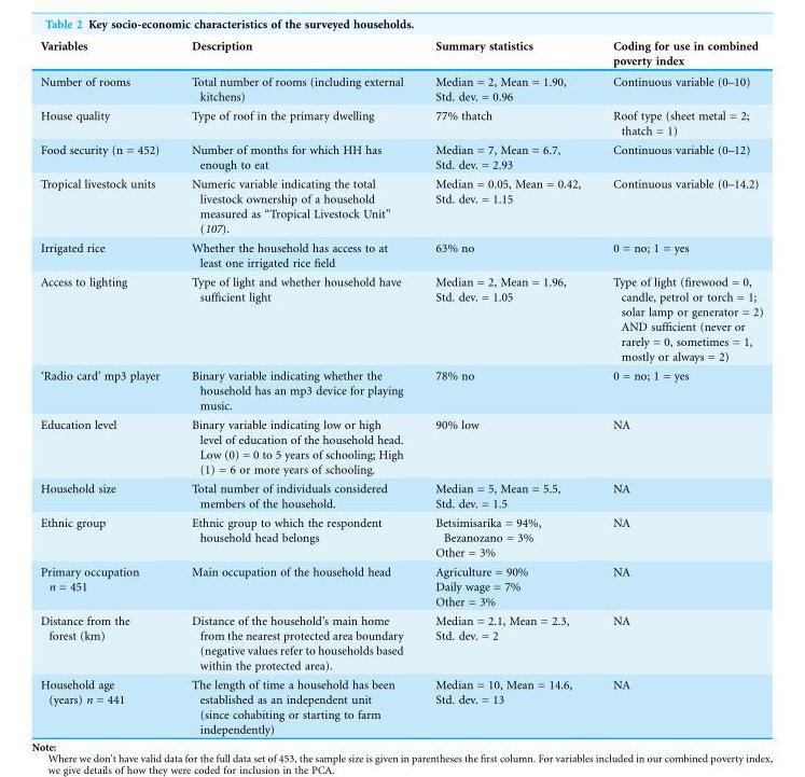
<table><thead><tr><td>Variables</td><td>Description</td><td>Summary statistics</td><td>Coding for use in combined poverty index</td></tr></thead><tbody><tr><td>Number of rooms</td><td>Total number of rooms (including external kitchens)</td><td>Median = 2, Mean = 1.90, Std. dev. = 0.96</td><td>Continuous variable (0–10)</td></tr><tr><td>House quality</td><td>Type of roof in the primary dwelling</td><td>77% thatch</td><td>Roof type (sheet metal = 2; thatch = 1)</td></tr><tr><td>Food security (n = 452)</td><td>Number of months for which HH has enough to eat</td><td>Median = 7, Mean = 6.7, Std. dev. = 2.93</td><td>Continuous variable (0–12)</td></tr><tr><td>Tropical livestock units</td><td>Numeric variable indicating the total livestock ownership of a household measured as “Tropical Livestock Unit” (107).</td><td>Median = 0.05, Mean = 0.42, Std. dev. = 1.15</td><td>Continuous variable (0–14.2)</td></tr><tr><td>Irrigated rice</td><td>Whether the household has access to at least one irrigated rice field</td><td>63% no</td><td>0 = no; 1 = yes</td></tr><tr><td>Access to lighting</td><td>Type of light and whether household have sufficient light</td><td>Median = 2, Mean = 1.96, Std. dev. = 1.05</td><td>Type of light (firewood = 0, candle, petrol or torch = 1; solar lamp or generator = 2) AND sufficient (never or rarely = 0, sometimes = 1, mostly or always = 2)</td></tr><tr><td>‘Radio card’ mp3 player</td><td>Binary variable indicating whether the household has an mp3 device for playing music.</td><td>78% no</td><td>0 = no; 1 = yes</td></tr><tr><td>Education level</td><td>Binary variable indicating low or high level of education of the household head. Low (0) = 0 to 5 years of schooling; High (1) = 6 or more years of schooling.</td><td>90% low</td><td>NA</td></tr><tr><td>Household size</td><td>Total number of individuals considered members of the household.</td><td>Median = 5, Mean = 5.5, Std. dev. = 1.5</td><td>NA</td></tr><tr><td>Ethnic group</td><td>Ethnic group to which the respondent household head belongs</td><td>Betsimisarika = 94%, Bezanozano = 3% Other = 3%</td><td>NA</td></tr><tr><td>Primary occupation n = 451</td><td>Main occupation of the household head</td><td>Agriculture = 90% Daily wage = 7% Other = 3%</td><td>NA</td></tr><tr><td>Distance from the forest (km)</td><td>Distance of the household’s main home from the nearest protected area boundary (negative values refer to households based within the protected area).</td><td>Median = 2.1, Mean = 2.3, Std. dev. = 2</td><td>NA</td></tr><tr><td>Household age (years) n = 441</td><td>The length of time a household has been established as an independent unit (since cohabiting or starting to farm independently)</td><td>Median = 10, Mean = 14.6, Std. dev. = 13</td><td>NA</td></tr></tbody></table>